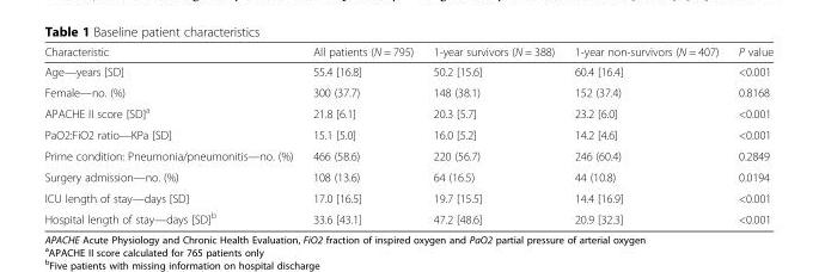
<table><thead><tr><td>Characteristic</td><td>All patients (N = 795)</td><td>1-year survivors (N = 388)</td><td>1-year non-survivors (N = 407)</td><td>P value</td></tr></thead><tbody><tr><td>Age—years [SD]</td><td>55.4 [16.8]</td><td>50.2 [15.6]</td><td>60.4 [16.4]</td><td>&lt;0.001</td></tr><tr><td>Female—no. (%)</td><td>300 (37.7)</td><td>148 (38.1)</td><td>152 (37.4)</td><td>0.8168</td></tr><tr><td>APACHE II score [SD]<sup>a</sup></td><td>21.8 [6.1]</td><td>20.3 [5.7]</td><td>23.2 [6.0]</td><td>&lt;0.001</td></tr><tr><td>PaO2:FiO2 ratio—KPa [SD]</td><td>15.1 [5.0]</td><td>16.0 [5.2]</td><td>14.2 [4.6]</td><td>&lt;0.001</td></tr><tr><td>Prime condition: Pneumonia/pneumonitis—no. (%)</td><td>466 (58.6)</td><td>220 (56.7)</td><td>246 (60.4)</td><td>0.2849</td></tr><tr><td>Surgery admission—no. (%)</td><td>108 (13.6)</td><td>64 (16.5)</td><td>44 (10.8)</td><td>0.0194</td></tr><tr><td>ICU length of stay—days [SD]</td><td>17.0 [16.5]</td><td>19.7 [15.5]</td><td>14.4 [16.9]</td><td>&lt;0.001</td></tr><tr><td>Hospital length of stay—days [SD]<sup>b</sup></td><td>33.6 [43.1]</td><td>47.2 [48.6]</td><td>20.9 [32.3]</td><td>&lt;0.001</td></tr></tbody></table>